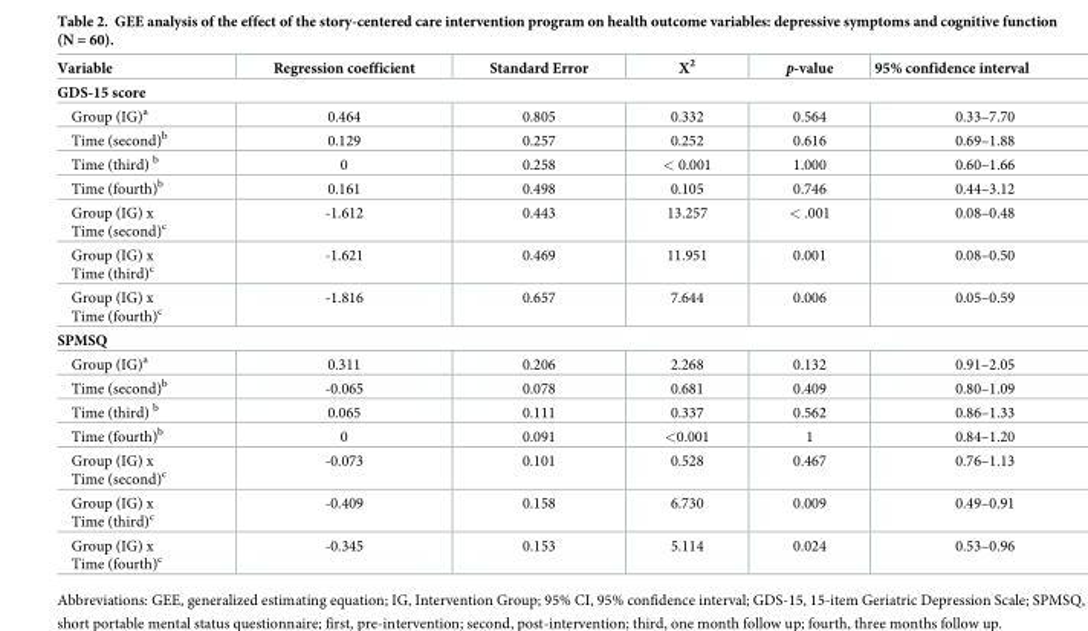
<table><thead><tr><td>Variable</td><td>Regression coefficient</td><td>Standard Error</td><td>X<sup>2</sup></td><td>p-value</td><td>95% confidence interval</td></tr></thead><tbody><tr><td colspan="6">GDS-15 score</td></tr><tr><td>Group (IG)<sup>a</sup></td><td>0.464</td><td>0.805</td><td>0.332</td><td>0.564</td><td>0.33–7.70</td></tr><tr><td>Time (second)<sup>b</sup></td><td>0.129</td><td>0.257</td><td>0.252</td><td>0.616</td><td>0.69–1.88</td></tr><tr><td>Time (third) <sup>b</sup></td><td>0</td><td>0.258</td><td>&lt; 0.001</td><td>1.000</td><td>0.60–1.66</td></tr><tr><td>Time (fourth)<sup>b</sup></td><td>0.161</td><td>0.498</td><td>0.105</td><td>0.746</td><td>0.44–3.12</td></tr><tr><td>Group (IG) x Time (second)<sup>c</sup></td><td>-1.612</td><td>0.443</td><td>13.257</td><td>&lt; .001</td><td>0.08–0.48</td></tr><tr><td>Group (IG) x Time (third)<sup>c</sup></td><td>-1.621</td><td>0.469</td><td>11.951</td><td>0.001</td><td>0.08–0.50</td></tr><tr><td>Group (IG) x Time (fourth)<sup>c</sup></td><td>-1.816</td><td>0.657</td><td>7.644</td><td>0.006</td><td>0.05–0.59</td></tr><tr><td colspan="6">SPMSQ</td></tr><tr><td>Group (IG)<sup>a</sup></td><td>0.311</td><td>0.206</td><td>2.268</td><td>0.132</td><td>0.91–2.05</td></tr><tr><td>Time (second)<sup>b</sup></td><td>-0.065</td><td>0.078</td><td>0.681</td><td>0.409</td><td>0.80–1.09</td></tr><tr><td>Time (third) <sup>b</sup></td><td>0.065</td><td>0.111</td><td>0.337</td><td>0.562</td><td>0.86–1.33</td></tr><tr><td>Time (fourth)<sup>b</sup></td><td>0</td><td>0.091</td><td>&lt;0.001</td><td>1</td><td>0.84–1.20</td></tr><tr><td>Group (IG) x Time (second)<sup>c</sup></td><td>-0.073</td><td>0.101</td><td>0.528</td><td>0.467</td><td>0.76–1.13</td></tr><tr><td>Group (IG) x Time (third)<sup>c</sup></td><td>-0.409</td><td>0.158</td><td>6.730</td><td>0.009</td><td>0.49–0.91</td></tr><tr><td>Group (IG) x Time (fourth)<sup>c</sup></td><td>-0.345</td><td>0.153</td><td>5.114</td><td>0.024</td><td>0.53–0.96</td></tr></tbody></table>